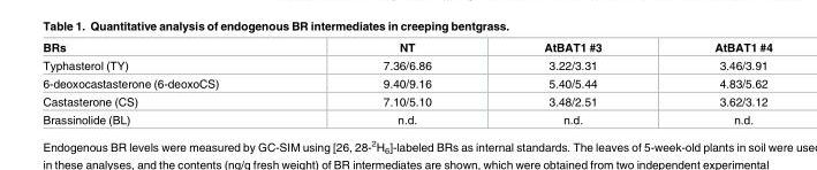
<table><thead><tr><td>BRs</td><td>NT</td><td>AtBAT1 #3</td><td>AtBAT1 #4</td></tr></thead><tbody><tr><td>Typhasterol (TY)</td><td>7.36/6.86</td><td>3.22/3.31</td><td>3.46/3.91</td></tr><tr><td>6-deoxocastasterone (6-deoxoCS)</td><td>9.40/9.16</td><td>5.40/5.44</td><td>4.83/5.62</td></tr><tr><td>Castasterone (CS)</td><td>7.10/5.10</td><td>3.48/2.51</td><td>3.62/3.12</td></tr><tr><td>Brassinolide (BL)</td><td>n.d.</td><td>n.d.</td><td>n.d.</td></tr></tbody></table>